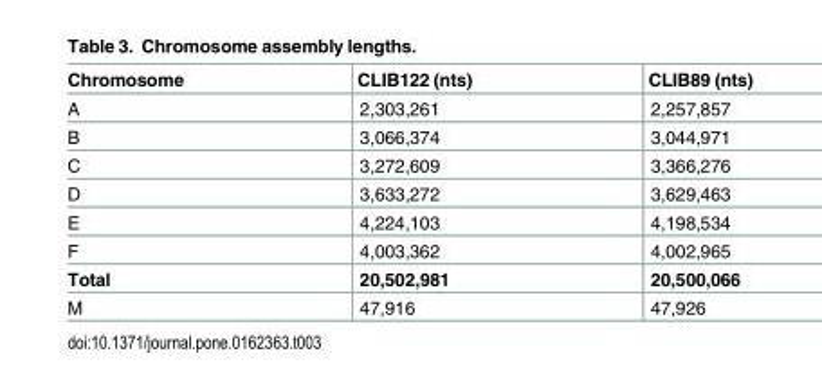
<table><thead><tr><td>Chromosome</td><td>CLIB122 (nts)</td><td>CLIB89 (nts)</td></tr></thead><tbody><tr><td>A</td><td>2,303,261</td><td>2,257,857</td></tr><tr><td>B</td><td>3,066,374</td><td>3,044,971</td></tr><tr><td>C</td><td>3,272,609</td><td>3,366,276</td></tr><tr><td>D</td><td>3,633,272</td><td>3,629,463</td></tr><tr><td>E</td><td>4,224,103</td><td>4,198,534</td></tr><tr><td>F</td><td>4,003,362</td><td>4,002,965</td></tr><tr><td>Total</td><td>20,502,981</td><td>20,500,066</td></tr><tr><td>M</td><td>47,916</td><td>47,926</td></tr></tbody></table>